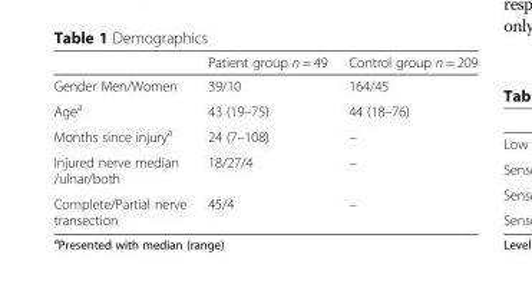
<table><thead><tr><td></td><td>Patient group n = 49</td><td>Control group n = 209</td></tr></thead><tbody><tr><td>Gender Men/Women</td><td>39/10</td><td>164/45</td></tr><tr><td>Age<sup>a</sup></td><td>43 (19–75)</td><td>44 (18–76)</td></tr><tr><td>Months since injury<sup>a</sup></td><td>24 (7–108)</td><td>–</td></tr><tr><td>Injured nerve median /ulnar/both</td><td>18/27/4</td><td>–</td></tr><tr><td>Complete/Partial nerve transection</td><td>45/4</td><td>–</td></tr></tbody></table>